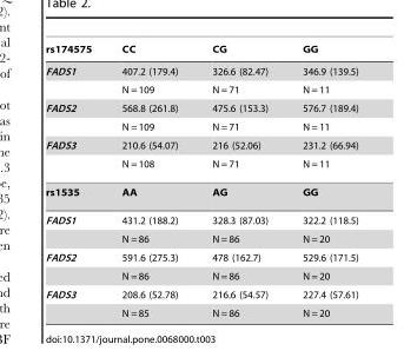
<table><thead><tr><td>rs174575</td><td>CC</td><td>CG</td><td>GG</td></tr></thead><tbody><tr><td rowspan="2">FADS1</td><td>407.2 (179.4)</td><td>326.6 (82.47)</td><td>346.9 (139.5)</td></tr><tr><td>N = 109</td><td>N = 71</td><td>N = 11</td></tr><tr><td rowspan="2">FADS2</td><td>568.8 (261.8)</td><td>475.6 (153.3)</td><td>576.7 (189.4)</td></tr><tr><td>N = 109</td><td>N = 71</td><td>N = 11</td></tr><tr><td rowspan="2">FADS3</td><td>210.6 (54.07)</td><td>216 (52.06)</td><td>231.2 (66.94)</td></tr><tr><td>N = 108</td><td>N = 71</td><td>N = 11</td></tr><tr><td>rs1535</td><td>AA</td><td>AG</td><td>GG</td></tr><tr><td rowspan="2">FADS1</td><td>431.2 (188.2)</td><td>328.3 (87.03)</td><td>322.2 (118.5)</td></tr><tr><td>N = 86</td><td>N = 86</td><td>N = 20</td></tr><tr><td rowspan="2">FADS2</td><td>591.6 (275.3)</td><td>478 (162.7)</td><td>529.6 (171.5)</td></tr><tr><td>N = 86</td><td>N = 86</td><td>N = 20</td></tr><tr><td rowspan="2">FADS3</td><td>208.6 (52.78)</td><td>216.6 (54.57)</td><td>227.4 (57.61)</td></tr><tr><td>N = 85</td><td>N = 86</td><td>N = 20</td></tr></tbody></table>